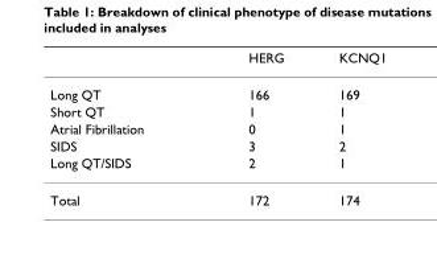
<table><thead><tr><td></td><td>HERG</td><td>KCNQ1</td></tr></thead><tbody><tr><td>Long QT</td><td>166</td><td>169</td></tr><tr><td>Short QT</td><td>1</td><td>1</td></tr><tr><td>Atrial Fibrillation</td><td>0</td><td>1</td></tr><tr><td>SIDS</td><td>3</td><td>2</td></tr><tr><td>Long QT/SIDS</td><td>2</td><td>1</td></tr><tr><td>Total</td><td>172</td><td>174</td></tr></tbody></table>